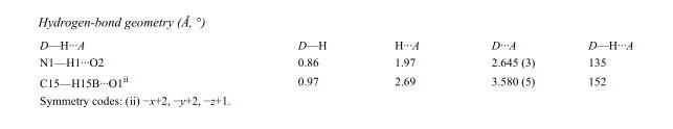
<table><tbody><tr><td>D—H···A</td><td>D—H</td><td>H···A</td><td>D···A</td><td>D—H···A</td></tr><tr><td>N1—H1···O2</td><td>0.86</td><td>1.97</td><td>2.645 (3)</td><td>135</td></tr><tr><td>C15—H15B···O1<sup>ii</sup></td><td>0.97</td><td>2.69</td><td>3.580 (5)</td><td>152</td></tr></tbody></table>